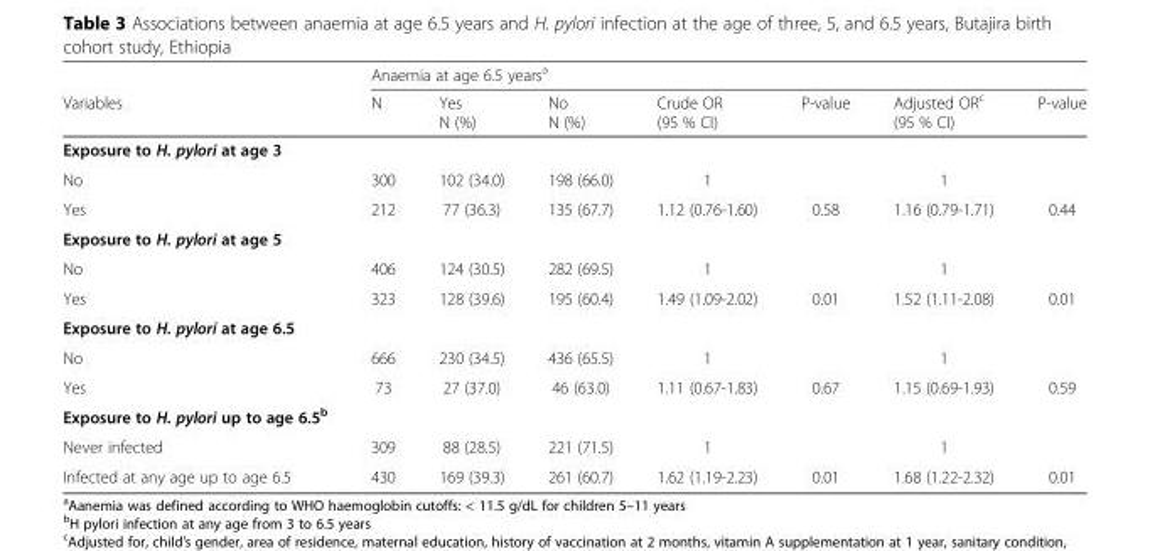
<table><thead><tr><td rowspan="2">Variables</td><td colspan="7">Anaemia at age 6.5 years<sup>a</sup></td></tr><tr><td>N</td><td>Yes N (%)</td><td>No N (%)</td><td>Crude OR (95 % CI)</td><td>P-value</td><td>Adjusted OR<sup>c</sup> (95 % CI)</td><td>P-value</td></tr></thead><tbody><tr><td colspan="8">Exposure to H. pylori at age 3</td></tr><tr><td>No</td><td>300</td><td>102 (34.0)</td><td>198 (66.0)</td><td>1</td><td></td><td>1</td><td></td></tr><tr><td>Yes</td><td>212</td><td>77 (36.3)</td><td>135 (67.7)</td><td>1.12 (0.76-1.60)</td><td>0.58</td><td>1.16 (0.79-1.71)</td><td>0.44</td></tr><tr><td colspan="8">Exposure to H. pylori at age 5</td></tr><tr><td>No</td><td>406</td><td>124 (30.5)</td><td>282 (69.5)</td><td>1</td><td></td><td>1</td><td></td></tr><tr><td>Yes</td><td>323</td><td>128 (39.6)</td><td>195 (60.4)</td><td>1.49 (1.09-2.02)</td><td>0.01</td><td>1.52 (1.11-2.08)</td><td>0.01</td></tr><tr><td colspan="8">Exposure to H. pylori at age 6.5</td></tr><tr><td>No</td><td>666</td><td>230 (34.5)</td><td>436 (65.5)</td><td>1</td><td></td><td>1</td><td></td></tr><tr><td>Yes</td><td>73</td><td>27 (37.0)</td><td>46 (63.0)</td><td>1.11 (0.67-1.83)</td><td>0.67</td><td>1.15 (0.69-1.93)</td><td>0.59</td></tr><tr><td colspan="8">Exposure to H. pylori up to age 6.5<sup>b</sup></td></tr><tr><td>Never infected</td><td>309</td><td>88 (28.5)</td><td>221 (71.5)</td><td>1</td><td></td><td>1</td><td></td></tr><tr><td>Infected at any age up to age 6.5</td><td>430</td><td>169 (39.3)</td><td>261 (60.7)</td><td>1.62 (1.19-2.23)</td><td>0.01</td><td>1.68 (1.22-2.32)</td><td>0.01</td></tr></tbody></table>